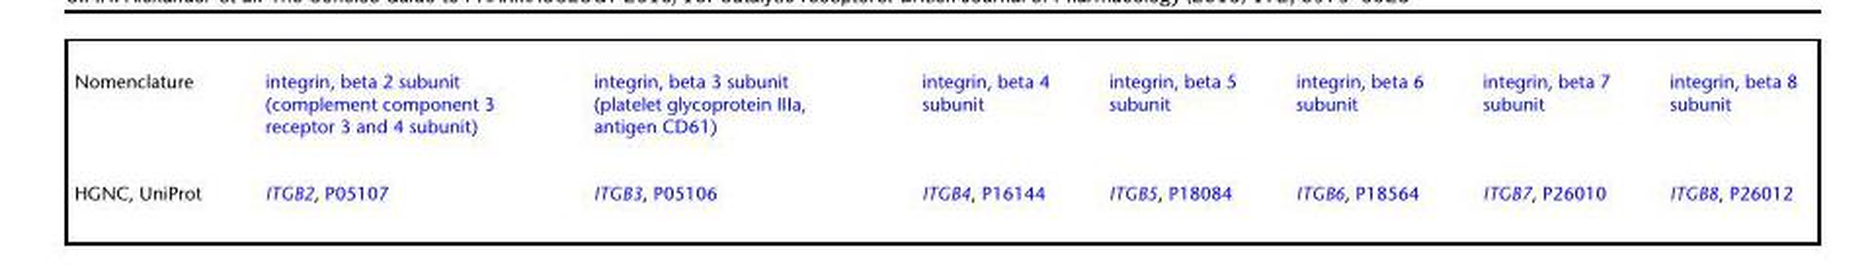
<table><tbody><tr><td>Nomenclature</td><td>integrin, beta 2 subunit (complement component 3 receptor 3 and 4 subunit)</td><td>integrin, beta 3 subunit (platelet glycoprotein IIIa, antigen CD61)</td><td>integrin, beta 4 subunit</td><td>integrin, beta 5 subunit</td><td>integrin, beta 6 subunit</td><td>integrin, beta 7 subunit</td><td>integrin, beta 8 subunit</td></tr><tr><td>HGNC, UniProt</td><td>ITGB2, P05107</td><td>ITGB3, P05106</td><td>ITGB4, P16144</td><td>ITGB5, P18084</td><td>ITGB6, P18564</td><td>ITGB7, P26010</td><td>ITGB8, P26012</td></tr></tbody></table>